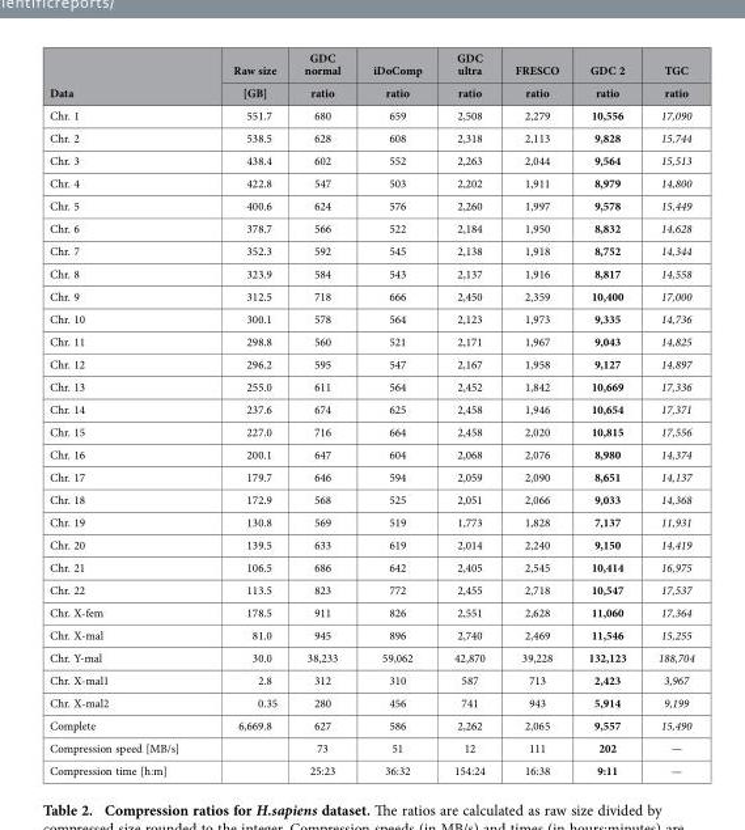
<table><thead><tr><td rowspan="2">Data</td><td rowspan="2">Raw size [GB]</td><td rowspan="2">GDC normal ratio</td><td rowspan="2">iDoComp ratio</td><td rowspan="2">GDC ultra ratio</td><td rowspan="2">FRESCO ratio</td><td rowspan="2">GDC 2 ratio</td><td rowspan="2">TGC ratio</td></tr><tr></tr></thead><tbody><tr><td>Chr. 1</td><td>551.7</td><td>680</td><td>659</td><td>2,508</td><td>2,279</td><td>10,556</td><td>17,090</td></tr><tr><td>Chr. 2</td><td>538.5</td><td>628</td><td>608</td><td>2,318</td><td>2,113</td><td>9,828</td><td>15,744</td></tr><tr><td>Chr. 3</td><td>438.4</td><td>602</td><td>552</td><td>2,263</td><td>2,044</td><td>9,564</td><td>15,513</td></tr><tr><td>Chr. 4</td><td>422.8</td><td>547</td><td>503</td><td>2,202</td><td>1,911</td><td>8,979</td><td>14,800</td></tr><tr><td>Chr. 5</td><td>400.6</td><td>624</td><td>576</td><td>2,260</td><td>1,997</td><td>9,578</td><td>15,449</td></tr><tr><td>Chr. 6</td><td>378.7</td><td>566</td><td>522</td><td>2,184</td><td>1,950</td><td>8,832</td><td>14,628</td></tr><tr><td>Chr. 7</td><td>352.3</td><td>592</td><td>545</td><td>2,138</td><td>1,918</td><td>8,752</td><td>14,344</td></tr><tr><td>Chr. 8</td><td>323.9</td><td>584</td><td>543</td><td>2,137</td><td>1,916</td><td>8,817</td><td>14,558</td></tr><tr><td>Chr. 9</td><td>312.5</td><td>718</td><td>666</td><td>2,450</td><td>2,359</td><td>10,400</td><td>17,000</td></tr><tr><td>Chr. 10</td><td>300.1</td><td>578</td><td>564</td><td>2,123</td><td>1,973</td><td>9,335</td><td>14,736</td></tr><tr><td>Chr. 11</td><td>298.8</td><td>560</td><td>521</td><td>2,171</td><td>1,967</td><td>9,043</td><td>14,825</td></tr><tr><td>Chr. 12</td><td>296.2</td><td>595</td><td>547</td><td>2,167</td><td>1,958</td><td>9,127</td><td>14,897</td></tr><tr><td>Chr. 13</td><td>255.0</td><td>611</td><td>564</td><td>2,452</td><td>1,842</td><td>10,669</td><td>17,336</td></tr><tr><td>Chr. 14</td><td>237.6</td><td>674</td><td>625</td><td>2,458</td><td>1,946</td><td>10,654</td><td>17,371</td></tr><tr><td>Chr. 15</td><td>227.0</td><td>716</td><td>664</td><td>2,458</td><td>2,020</td><td>10,815</td><td>17,556</td></tr><tr><td>Chr. 16</td><td>200.1</td><td>647</td><td>604</td><td>2,068</td><td>2,076</td><td>8,980</td><td>14,374</td></tr><tr><td>Chr. 17</td><td>179.7</td><td>646</td><td>594</td><td>2,059</td><td>2,090</td><td>8,651</td><td>14,137</td></tr><tr><td>Chr. 18</td><td>172.9</td><td>568</td><td>525</td><td>2,051</td><td>2,066</td><td>9,033</td><td>14,368</td></tr><tr><td>Chr. 19</td><td>130.8</td><td>569</td><td>519</td><td>1,773</td><td>1,828</td><td>7,137</td><td>11,931</td></tr><tr><td>Chr. 20</td><td>139.5</td><td>633</td><td>619</td><td>2,014</td><td>2,240</td><td>9,150</td><td>14,419</td></tr><tr><td>Chr. 21</td><td>106.5</td><td>686</td><td>642</td><td>2,405</td><td>2,545</td><td>10,414</td><td>16,975</td></tr><tr><td>Chr. 22</td><td>113.5</td><td>823</td><td>772</td><td>2,455</td><td>2,718</td><td>10,547</td><td>17,537</td></tr><tr><td>Chr. X-fem</td><td>178.5</td><td>911</td><td>826</td><td>2,551</td><td>2,628</td><td>11,060</td><td>17,364</td></tr><tr><td>Chr. X-mal</td><td>81.0</td><td>945</td><td>896</td><td>2,740</td><td>2,469</td><td>11,546</td><td>15,255</td></tr><tr><td>Chr. Y-mal</td><td>30.0</td><td>38,233</td><td>59,062</td><td>42,870</td><td>39,228</td><td>132,123</td><td>188,704</td></tr><tr><td>Chr. X-mal1</td><td>2.8</td><td>312</td><td>310</td><td>587</td><td>713</td><td>2,423</td><td>3,967</td></tr><tr><td>Chr. X-mal2</td><td>0.35</td><td>280</td><td>456</td><td>741</td><td>943</td><td>5,914</td><td>9,199</td></tr><tr><td>Complete</td><td>6,669.8</td><td>627</td><td>586</td><td>2,262</td><td>2,065</td><td>9,557</td><td>15,490</td></tr><tr><td>Compression speed [MB/s]</td><td></td><td>73</td><td>51</td><td>12</td><td>111</td><td>202</td><td>—</td></tr><tr><td>Compression time [h:m]</td><td></td><td>25:23</td><td>36:32</td><td>154:24</td><td>16:38</td><td>9:11</td><td>—</td></tr></tbody></table>